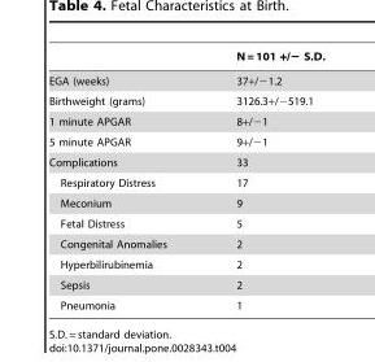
<table><thead><tr><td></td><td>N = 101 +/− S.D.</td></tr></thead><tbody><tr><td>EGA (weeks)</td><td>37+/−1.2</td></tr><tr><td>Birthweight (grams)</td><td>3126.3+/−519.1</td></tr><tr><td>1 minute APGAR</td><td>8+/−1</td></tr><tr><td>5 minute APGAR</td><td>9+/−1</td></tr><tr><td>Complications</td><td>33</td></tr><tr><td>Respiratory Distress</td><td>17</td></tr><tr><td>Meconium</td><td>9</td></tr><tr><td>Fetal Distress</td><td>5</td></tr><tr><td>Congenital Anomalies</td><td>2</td></tr><tr><td>Hyperbilirubinemia</td><td>2</td></tr><tr><td>Sepsis</td><td>2</td></tr><tr><td>Pneumonia</td><td>1</td></tr></tbody></table>